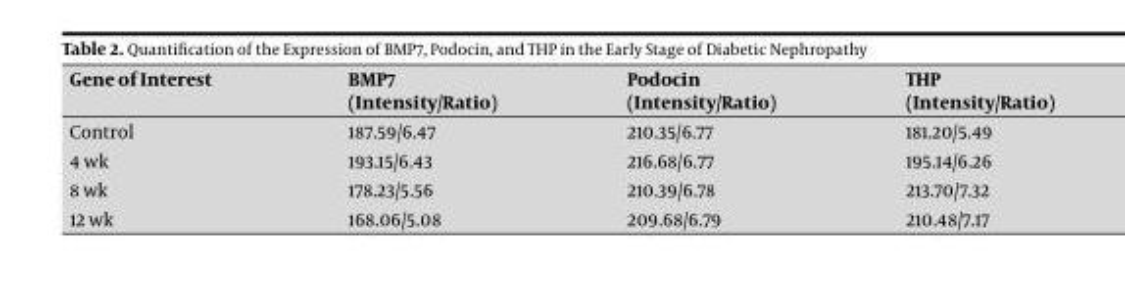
<table><thead><tr><td>Gene of Interest</td><td>BMP7 (Intensity/Ratio)</td><td>Podocin (Intensity/Ratio)</td><td>THP (Intensity/Ratio)</td></tr></thead><tbody><tr><td>Control</td><td>187.59/6.47</td><td>210.35/6.77</td><td>181.20/5.49</td></tr><tr><td>4 wk</td><td>193.15/6.43</td><td>216.68/6.77</td><td>195.14/6.26</td></tr><tr><td>8 wk</td><td>178.23/5.56</td><td>210.39/6.78</td><td>213.70/7.32</td></tr><tr><td>12 wk</td><td>168.06/5.08</td><td>209.68/6.79</td><td>210.48/7.17</td></tr></tbody></table>